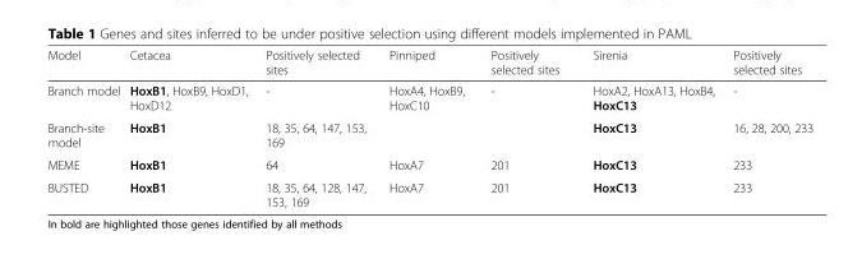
<table><thead><tr><td>Model</td><td>Cetacea</td><td>Positively selected sites</td><td>Pinniped</td><td>Positively selected sites</td><td>Sirenia</td><td>Positively selected sites</td></tr></thead><tbody><tr><td>Branch model</td><td>HoxB1, HoxB9, HoxD1, HoxD12</td><td>-</td><td>HoxA4, HoxB9, HoxC10</td><td>-</td><td>HoxA2, HoxA13, HoxB4, HoxC13</td><td>-</td></tr><tr><td>Branch-site model</td><td>HoxB1</td><td>18, 35, 64, 147, 153, 169</td><td></td><td></td><td>HoxC13</td><td>16, 28, 200, 233</td></tr><tr><td>MEME</td><td>HoxB1</td><td>64</td><td>HoxA7</td><td>201</td><td>HoxC13</td><td>233</td></tr><tr><td>BUSTED</td><td>HoxB1</td><td>18, 35, 64, 128, 147, 153, 169</td><td>HoxA7</td><td>201</td><td>HoxC13</td><td>233</td></tr></tbody></table>